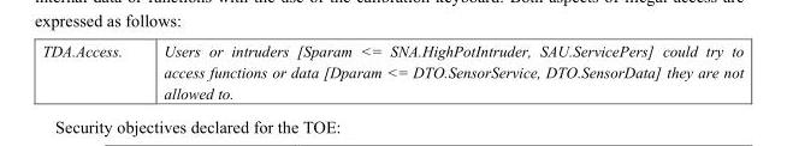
<table><tbody><tr><td>TDA.Access.</td><td>Users or intruders [Sparam &lt;= SNA.HighPotIntruder, SAU.ServicePers] could try to access functions or data [Dparam &lt;= DTO.SensorService, DTO.SensorData] they are not allowed to.</td></tr></tbody></table>